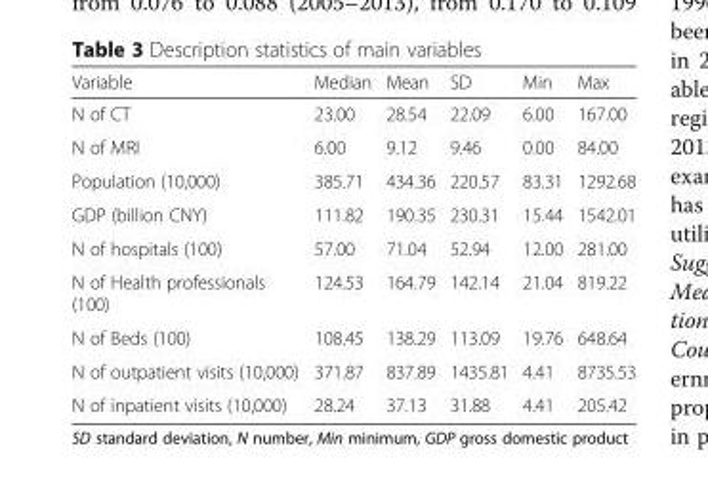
<table><thead><tr><td>Variable</td><td>Median</td><td>Mean</td><td>SD</td><td>Min</td><td>Max</td></tr></thead><tbody><tr><td>N of CT</td><td>23.00</td><td>28.54</td><td>22.09</td><td>6.00</td><td>167.00</td></tr><tr><td>N of MRI</td><td>6.00</td><td>9.12</td><td>9.46</td><td>0.00</td><td>84.00</td></tr><tr><td>Population (10,000)</td><td>385.71</td><td>434.36</td><td>220.57</td><td>83.31</td><td>1292.68</td></tr><tr><td>GDP (billion CNY)</td><td>111.82</td><td>190.35</td><td>230.31</td><td>15.44</td><td>1542.01</td></tr><tr><td>N of hospitals (100)</td><td>57.00</td><td>71.04</td><td>52.94</td><td>12.00</td><td>281.00</td></tr><tr><td>N of Health professionals (100)</td><td>124.53</td><td>164.79</td><td>142.14</td><td>21.04</td><td>819.22</td></tr><tr><td>N of Beds (100)</td><td>108.45</td><td>138.29</td><td>113.09</td><td>19.76</td><td>648.64</td></tr><tr><td>N of outpatient visits (10,000)</td><td>371.87</td><td>837.89</td><td>1435.81</td><td>4.41</td><td>8735.53</td></tr><tr><td>N of inpatient visits (10,000)</td><td>28.24</td><td>37.13</td><td>31.88</td><td>4.41</td><td>205.42</td></tr></tbody></table>